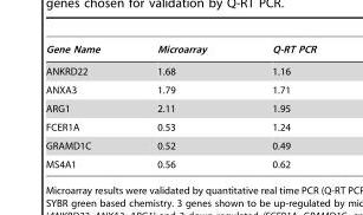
<table><thead><tr><td>Gene Name</td><td>Microarray</td><td>Q-RT PCR</td></tr></thead><tbody><tr><td>ANKRD22</td><td>1.68</td><td>1.16</td></tr><tr><td>ANXA3</td><td>1.79</td><td>1.71</td></tr><tr><td>ARG1</td><td>2.11</td><td>1.95</td></tr><tr><td>FCER1A</td><td>0.53</td><td>1.24</td></tr><tr><td>GRAMD1C</td><td>0.52</td><td>0.49</td></tr><tr><td>MS4A1</td><td>0.56</td><td>0.62</td></tr></tbody></table>